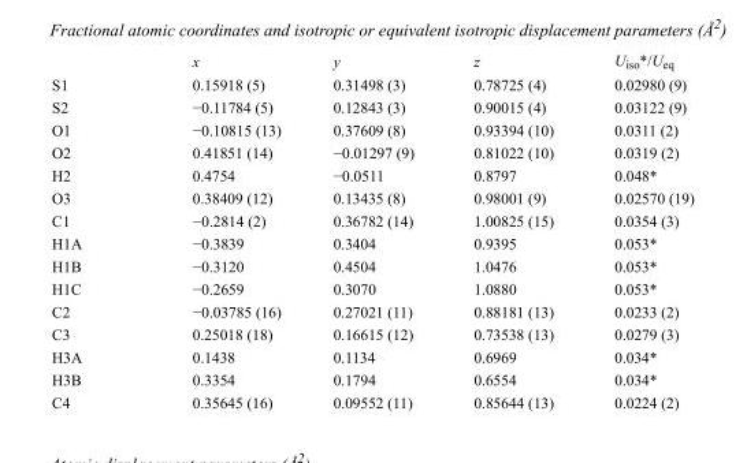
<table><thead><tr><td></td><td>x</td><td>y</td><td>z</td><td>U<sub>iso</sub>*/U<sub>eq</sub></td></tr></thead><tbody><tr><td>S1</td><td>0.15918 (5)</td><td>0.31498 (3)</td><td>0.78725 (4)</td><td>0.02980 (9)</td></tr><tr><td>S2</td><td>−0.11784 (5)</td><td>0.12843 (3)</td><td>0.90015 (4)</td><td>0.03122 (9)</td></tr><tr><td>O1</td><td>−0.10815 (13)</td><td>0.37609 (8)</td><td>0.93394 (10)</td><td>0.0311 (2)</td></tr><tr><td>O2</td><td>0.41851 (14)</td><td>−0.01297 (9)</td><td>0.81022 (10)</td><td>0.0319 (2)</td></tr><tr><td>H2</td><td>0.4754</td><td>−0.0511</td><td>0.8797</td><td>0.048*</td></tr><tr><td>O3</td><td>0.38409 (12)</td><td>0.13435 (8)</td><td>0.98001 (9)</td><td>0.02570 (19)</td></tr><tr><td>C1</td><td>−0.2814 (2)</td><td>0.36782 (14)</td><td>1.00825 (15)</td><td>0.0354 (3)</td></tr><tr><td>H1A</td><td>−0.3839</td><td>0.3404</td><td>0.9395</td><td>0.053*</td></tr><tr><td>H1B</td><td>−0.3120</td><td>0.4504</td><td>1.0476</td><td>0.053*</td></tr><tr><td>H1C</td><td>−0.2659</td><td>0.3070</td><td>1.0880</td><td>0.053*</td></tr><tr><td>C2</td><td>−0.03785 (16)</td><td>0.27021 (11)</td><td>0.88181 (13)</td><td>0.0233 (2)</td></tr><tr><td>C3</td><td>0.25018 (18)</td><td>0.16615 (12)</td><td>0.73538 (13)</td><td>0.0279 (3)</td></tr><tr><td>H3A</td><td>0.1438</td><td>0.1134</td><td>0.6969</td><td>0.034*</td></tr><tr><td>H3B</td><td>0.3354</td><td>0.1794</td><td>0.6554</td><td>0.034*</td></tr><tr><td>C4</td><td>0.35645 (16)</td><td>0.09552 (11)</td><td>0.85644 (13)</td><td>0.0224 (2)</td></tr></tbody></table>